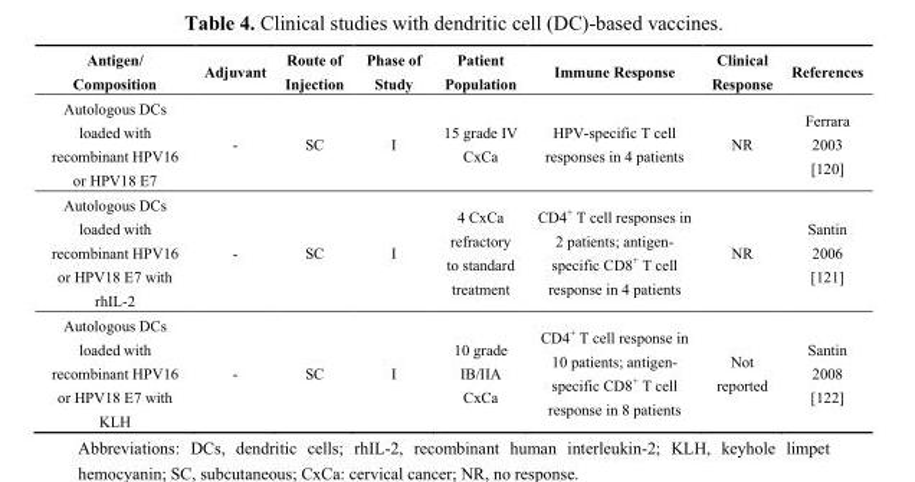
<table><thead><tr><td>Antigen/ Composition</td><td>Adjuvant</td><td>Route of Injection</td><td>Phase of Study</td><td>Patient Population</td><td>Immune Response</td><td>Clinical Response</td><td>References</td></tr></thead><tbody><tr><td>Autologous DCs loaded with recombinant HPV16 or HPV18 E7</td><td>-</td><td>SC</td><td>I</td><td>15 grade IV CxCa</td><td>HPV-specific T cell responses in 4 patients</td><td>NR</td><td>Ferrara 2003 [120]</td></tr><tr><td>Autologous DCs loaded with recombinant HPV16 or HPV18 E7 with rhIL-2</td><td>-</td><td>SC</td><td>I</td><td>4 CxCa refractory to standard treatment</td><td>CD4<sup>+</sup> T cell responses in 2 patients; antigen- specific CD8<sup>+</sup> T cell response in 4 patients</td><td>NR</td><td>Santin 2006 [121]</td></tr><tr><td>Autologous DCs loaded with recombinant HPV16 or HPV18 E7 with KLH</td><td>-</td><td>SC</td><td>I</td><td>10 grade IB/IIA CxCa</td><td>CD4<sup>+</sup> T cell response in 10 patients; antigen- specific CD8<sup>+</sup> T cell response in 8 patients</td><td>Not reported</td><td>Santin 2008 [122]</td></tr></tbody></table>